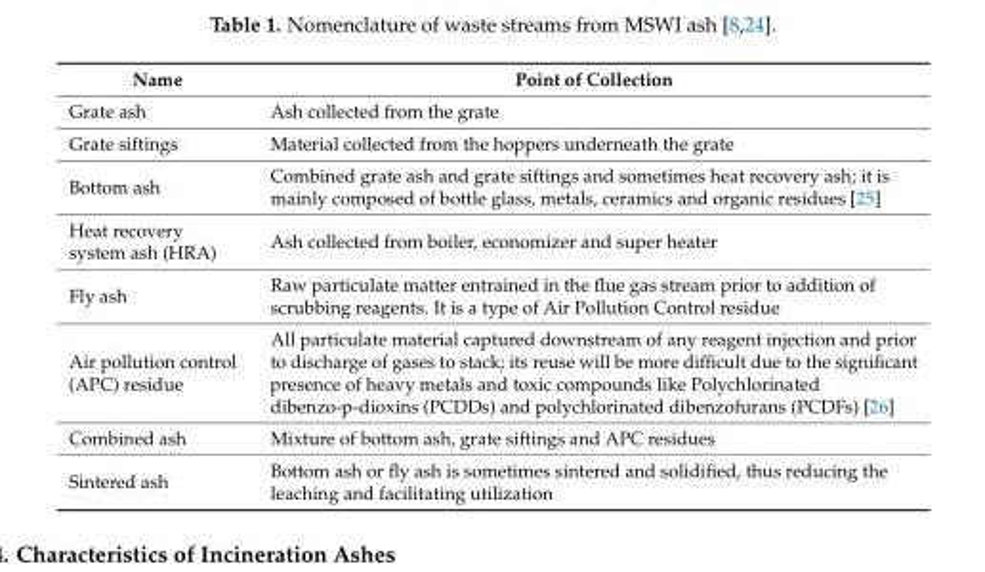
<table><thead><tr><td>Name</td><td>Point of Collection</td></tr></thead><tbody><tr><td>Grate ash</td><td>Ash collected from the grate</td></tr><tr><td>Grate siftings</td><td>Material collected from the hoppers underneath the grate</td></tr><tr><td>Bottom ash</td><td>Combined grate ash and grate siftings and sometimes heat recovery ash; it is mainly composed of bottle glass, metals, ceramics and organic residues [25]</td></tr><tr><td>Heat recovery system ash (HRA)</td><td>Ash collected from boiler, economizer and super heater</td></tr><tr><td>Fly ash</td><td>Raw particulate matter entrained in the flue gas stream prior to addition of scrubbing reagents. It is a type of Air Pollution Control residue</td></tr><tr><td>Air pollution control (APC) residue</td><td>All particulate material captured downstream of any reagent injection and prior to discharge of gases to stack; its reuse will be more difficult due to the significant presence of heavy metals and toxic compounds like Polychlorinated dibenzo-p-dioxins (PCDDs) and polychlorinated dibenzofurans (PCDFs) [26]</td></tr><tr><td>Combined ash</td><td>Mixture of bottom ash, grate siftings and APC residues</td></tr><tr><td>Sintered ash</td><td>Bottom ash or fly ash is sometimes sintered and solidified, thus reducing the leaching and facilitating utilization</td></tr></tbody></table>